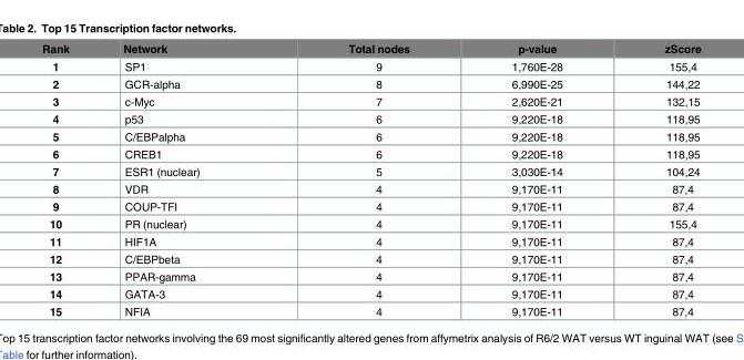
<table><thead><tr><td>Rank</td><td>Network</td><td>Total nodes</td><td>p-value</td><td>zScore</td></tr></thead><tbody><tr><td>1</td><td>SP1</td><td>9</td><td>1,760E-28</td><td>155,4</td></tr><tr><td>2</td><td>GCR-alpha</td><td>8</td><td>6,990E-25</td><td>144,22</td></tr><tr><td>3</td><td>c-Myc</td><td>7</td><td>2,620E-21</td><td>132,15</td></tr><tr><td>4</td><td>p53</td><td>6</td><td>9,220E-18</td><td>118,95</td></tr><tr><td>5</td><td>C/EBPalpha</td><td>6</td><td>9,220E-18</td><td>118,95</td></tr><tr><td>6</td><td>CREB1</td><td>6</td><td>9,220E-18</td><td>118,95</td></tr><tr><td>7</td><td>ESR1 (nuclear)</td><td>5</td><td>3,030E-14</td><td>104,24</td></tr><tr><td>8</td><td>VDR</td><td>4</td><td>9,170E-11</td><td>87,4</td></tr><tr><td>9</td><td>COUP-TFI</td><td>4</td><td>9,170E-11</td><td>87,4</td></tr><tr><td>10</td><td>PR (nuclear)</td><td>4</td><td>9,170E-11</td><td>155,4</td></tr><tr><td>11</td><td>HIF1A</td><td>4</td><td>9,170E-11</td><td>87,4</td></tr><tr><td>12</td><td>C/EBPbeta</td><td>4</td><td>9,170E-11</td><td>87,4</td></tr><tr><td>13</td><td>PPAR-gamma</td><td>4</td><td>9,170E-11</td><td>87,4</td></tr><tr><td>14</td><td>GATA-3</td><td>4</td><td>9,170E-11</td><td>87,4</td></tr><tr><td>15</td><td>NFIA</td><td>4</td><td>9,170E-11</td><td>87,4</td></tr></tbody></table>